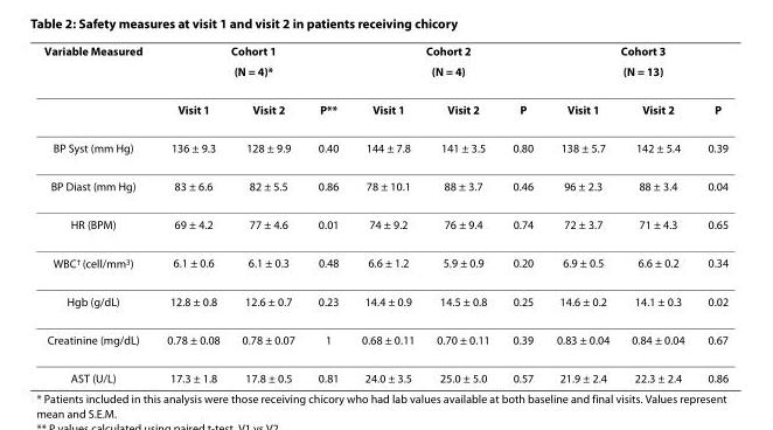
<table><thead><tr><td rowspan="3">Variable Measured</td><td rowspan="2" colspan="3">Cohort 1 (N = 4)*</td><td rowspan="2" colspan="3">Cohort 2 (N = 4)</td><td rowspan="2" colspan="3">Cohort 3 (N = 13)</td></tr><tr></tr><tr><td>Visit 1</td><td>Visit 2</td><td>P**</td><td>Visit 1</td><td>Visit 2</td><td>P</td><td>Visit 1</td><td>Visit 2</td><td>P</td></tr></thead><tbody><tr><td>BP Syst (mm Hg)</td><td>136 ± 9.3</td><td>128 ± 9.9</td><td>0.40</td><td>144 ± 7.8</td><td>141 ± 3.5</td><td>0.80</td><td>138 ± 5.7</td><td>142 ± 5.4</td><td>0.39</td></tr><tr><td>BP Diast (mm Hg)</td><td>83 ± 6.6</td><td>82 ± 5.5</td><td>0.86</td><td>78 ± 10.1</td><td>88 ± 3.7</td><td>0.46</td><td>96 ± 2.3</td><td>88 ± 3.4</td><td>0.04</td></tr><tr><td>HR (BPM)</td><td>69 ± 4.2</td><td>77 ± 4.6</td><td>0.01</td><td>74 ± 9.2</td><td>76 ± 9.4</td><td>0.74</td><td>72 ± 3.7</td><td>71 ± 4.3</td><td>0.65</td></tr><tr><td>WBC<sup>†</sup> (cell/mm<sup>3</sup>)</td><td>6.1 ± 0.6</td><td>6.1 ± 0.3</td><td>0.48</td><td>6.6 ± 1.2</td><td>5.9 ± 0.9</td><td>0.20</td><td>6.9 ± 0.5</td><td>6.6 ± 0.2</td><td>0.34</td></tr><tr><td>Hgb (g/dL)</td><td>12.8 ± 0.8</td><td>12.6 ± 0.7</td><td>0.23</td><td>14.4 ± 0.9</td><td>14.5 ± 0.8</td><td>0.25</td><td>14.6 ± 0.2</td><td>14.1 ± 0.3</td><td>0.02</td></tr><tr><td>Creatinine (mg/dL)</td><td>0.78 ± 0.08</td><td>0.78 ± 0.07</td><td>1</td><td>0.68 ± 0.11</td><td>0.70 ± 0.11</td><td>0.39</td><td>0.83 ± 0.04</td><td>0.84 ± 0.04</td><td>0.67</td></tr><tr><td>AST (U/L)</td><td>17.3 ± 1.8</td><td>17.8 ± 0.5</td><td>0.81</td><td>24.0 ± 3.5</td><td>25.0 ± 5.0</td><td>0.57</td><td>21.9 ± 2.4</td><td>22.3 ± 2.4</td><td>0.86</td></tr></tbody></table>